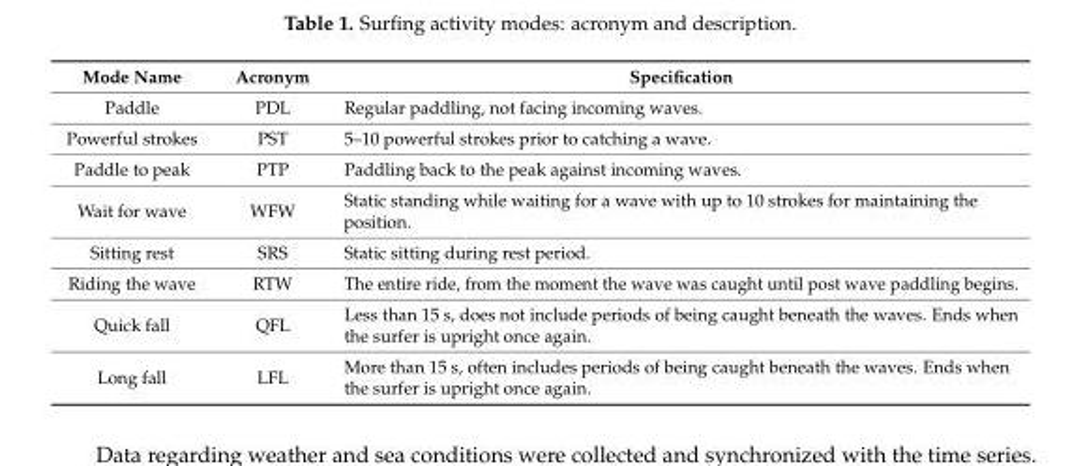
<table><thead><tr><td>Mode Name</td><td>Acronym</td><td>Specification</td></tr></thead><tbody><tr><td>Paddle</td><td>PDL</td><td>Regular paddling, not facing incoming waves.</td></tr><tr><td>Powerful strokes</td><td>PST</td><td>5–10 powerful strokes prior to catching a wave.</td></tr><tr><td>Paddle to peak</td><td>PTP</td><td>Paddling back to the peak against incoming waves.</td></tr><tr><td>Wait for wave</td><td>WFW</td><td>Static standing while waiting for a wave with up to 10 strokes for maintaining the position.</td></tr><tr><td>Sitting rest</td><td>SRS</td><td>Static sitting during rest period.</td></tr><tr><td>Riding the wave</td><td>RTW</td><td>The entire ride, from the moment the wave was caught until post wave paddling begins.</td></tr><tr><td>Quick fall</td><td>QFL</td><td>Less than 15 s, does not include periods of being caught beneath the waves. Ends when the surfer is upright once again.</td></tr><tr><td>Long fall</td><td>LFL</td><td>More than 15 s, often includes periods of being caught beneath the waves. Ends when the surfer is upright once again.</td></tr></tbody></table>